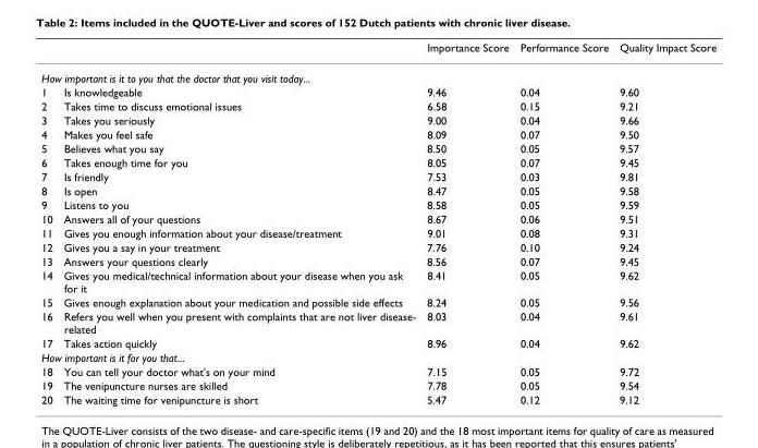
<table><thead><tr><td></td><td></td><td>Importance Score</td><td>Performance Score</td><td>Quality Impact Score</td></tr></thead><tbody><tr><td colspan="5">How important is it to you that the doctor that you visit today...</td></tr><tr><td>1</td><td>Is knowledgeable</td><td>9.46</td><td>0.04</td><td>9.60</td></tr><tr><td>2</td><td>Takes time to discuss emotional issues</td><td>6.58</td><td>0.15</td><td>9.21</td></tr><tr><td>3</td><td>Takes you seriously</td><td>9.00</td><td>0.04</td><td>9.66</td></tr><tr><td>4</td><td>Makes you feel safe</td><td>8.09</td><td>0.07</td><td>9.50</td></tr><tr><td>5</td><td>Believes what you say</td><td>8.50</td><td>0.05</td><td>9.57</td></tr><tr><td>6</td><td>Takes enough time for you</td><td>8.05</td><td>0.07</td><td>9.45</td></tr><tr><td>7</td><td>Is friendly</td><td>7.53</td><td>0.03</td><td>9.81</td></tr><tr><td>8</td><td>Is open</td><td>8.47</td><td>0.05</td><td>9.58</td></tr><tr><td>9</td><td>Listens to you</td><td>8.58</td><td>0.05</td><td>9.59</td></tr><tr><td>10</td><td>Answers all of your questions</td><td>8.67</td><td>0.06</td><td>9.51</td></tr><tr><td>11</td><td>Gives you enough information about your disease/treatment</td><td>9.01</td><td>0.08</td><td>9.31</td></tr><tr><td>12</td><td>Gives you a say in your treatment</td><td>7.76</td><td>0.10</td><td>9.24</td></tr><tr><td>13</td><td>Answers your questions clearly</td><td>8.56</td><td>0.07</td><td>9.45</td></tr><tr><td>14</td><td>Gives you medical/technical information about your disease when you ask for it</td><td>8.41</td><td>0.05</td><td>9.62</td></tr><tr><td>15</td><td>Gives enough explanation about your medication and possible side effects</td><td>8.24</td><td>0.05</td><td>9.56</td></tr><tr><td>16</td><td>Refers you well when you present with complaints that are not liver disease- related</td><td>8.03</td><td>0.04</td><td>9.61</td></tr><tr><td>17</td><td>Takes action quickly</td><td>8.96</td><td>0.04</td><td>9.62</td></tr><tr><td colspan="5">How important is it for you that...</td></tr><tr><td>18</td><td>You can tell your doctor what&#x27;s on your mind</td><td>7.15</td><td>0.05</td><td>9.72</td></tr><tr><td>19</td><td>The venipuncture nurses are skilled</td><td>7.78</td><td>0.05</td><td>9.54</td></tr><tr><td>20</td><td>The waiting time for venipuncture is short</td><td>5.47</td><td>0.12</td><td>9.12</td></tr></tbody></table>